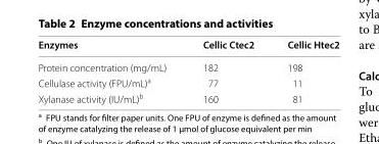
<table><thead><tr><td>Enzymes</td><td>Cellic Ctec2</td><td>Cellic Htec2</td></tr></thead><tbody><tr><td>Protein concentration (mg/mL)</td><td>182</td><td>198</td></tr><tr><td>Cellulase activity (FPU/mL)<sup>a</sup></td><td>77</td><td>11</td></tr><tr><td>Xylanase activity (IU/mL)<sup>b</sup></td><td>160</td><td>81</td></tr></tbody></table>